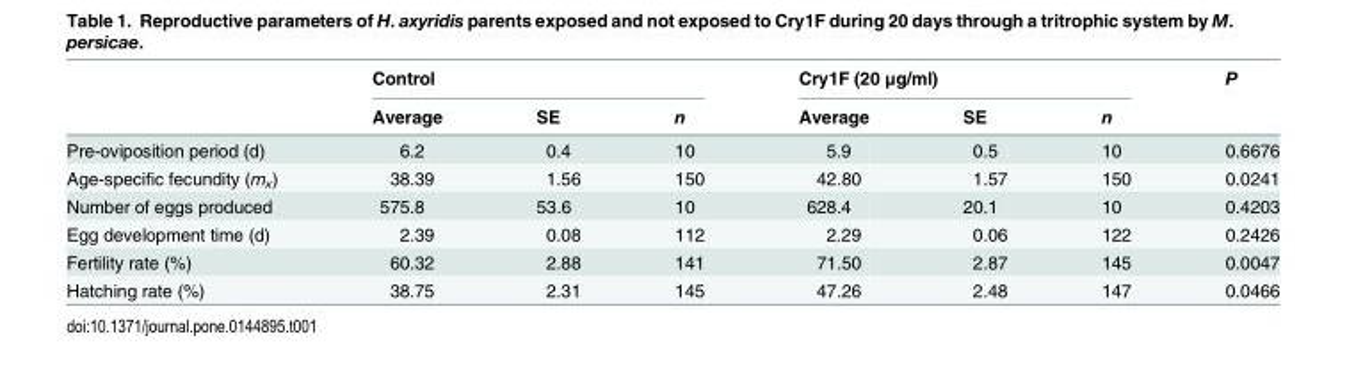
<table><thead><tr><td rowspan="2"></td><td colspan="3">Control</td><td colspan="3">Cry1F (20 μg/ml)</td><td rowspan="2">P</td></tr><tr><td>Average</td><td>SE</td><td>n</td><td>Average</td><td>SE</td><td>n</td></tr></thead><tbody><tr><td>Pre-oviposition period (d)</td><td>6.2</td><td>0.4</td><td>10</td><td>5.9</td><td>0.5</td><td>10</td><td>0.6676</td></tr><tr><td>Age-specific fecundity (m<sub>x</sub>)</td><td>38.39</td><td>1.56</td><td>150</td><td>42.80</td><td>1.57</td><td>150</td><td>0.0241</td></tr><tr><td>Number of eggs produced</td><td>575.8</td><td>53.6</td><td>10</td><td>628.4</td><td>20.1</td><td>10</td><td>0.4203</td></tr><tr><td>Egg development time (d)</td><td>2.39</td><td>0.08</td><td>112</td><td>2.29</td><td>0.06</td><td>122</td><td>0.2426</td></tr><tr><td>Fertility rate (%)</td><td>60.32</td><td>2.88</td><td>141</td><td>71.50</td><td>2.87</td><td>145</td><td>0.0047</td></tr><tr><td>Hatching rate (%)</td><td>38.75</td><td>2.31</td><td>145</td><td>47.26</td><td>2.48</td><td>147</td><td>0.0466</td></tr></tbody></table>